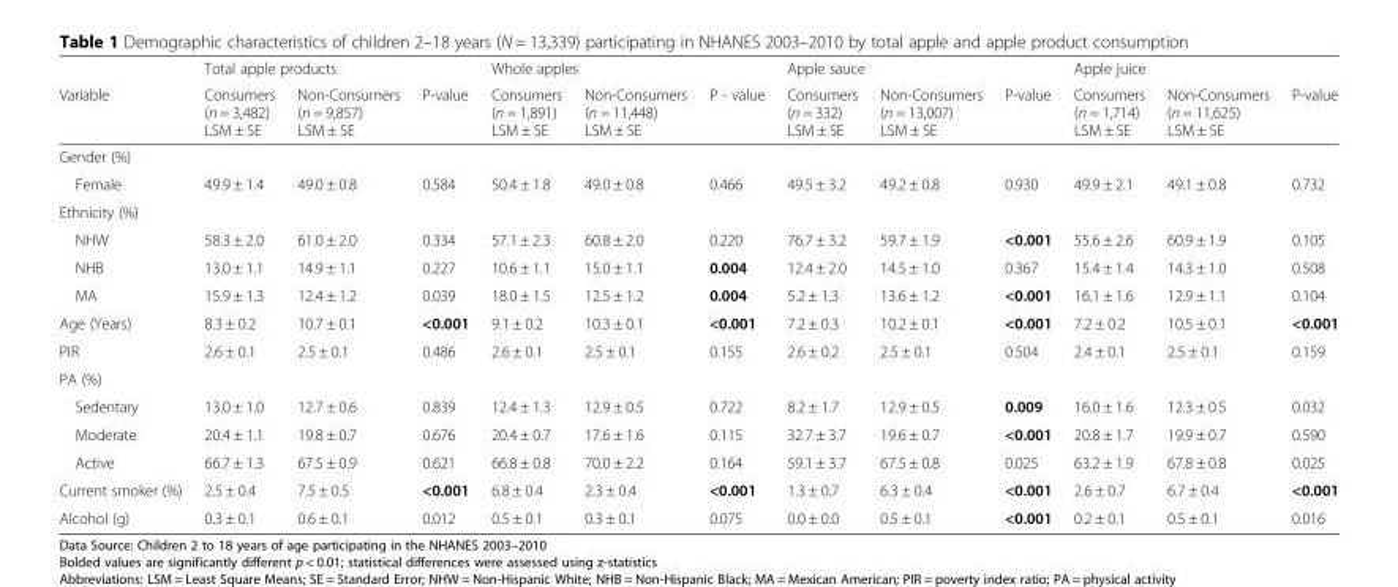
<table><thead><tr><td rowspan="2">Variable</td><td colspan="3">Total apple products</td><td colspan="3">Whole apples</td><td colspan="3">Apple sauce</td><td colspan="3">Apple juice</td></tr><tr><td>Consumers (n = 3,482) LSM ± SE</td><td>Non-Consumers (n = 9,857) LSM ± SE</td><td>P-value</td><td>Consumers (n = 1,891) LSM ± SE</td><td>Non-Consumers (n = 11,448) LSM ± SE</td><td>P - value</td><td>Consumers (n = 332) LSM ± SE</td><td>Non-Consumers (n = 13,007) LSM ± SE</td><td>P-value</td><td>Consumers (n = 1,714) LSM ± SE</td><td>Non-Consumers (n = 11,625) LSM ± SE</td><td>P-value</td></tr></thead><tbody><tr><td colspan="13">Gender (%)</td></tr><tr><td>Female</td><td>49.9 ± 1.4</td><td>49.0 ± 0.8</td><td>0.584</td><td>50.4 ± 1.8</td><td>49.0 ± 0.8</td><td>0.466</td><td>49.5 ± 3.2</td><td>49.2 ± 0.8</td><td>0.930</td><td>49.9 ± 2.1</td><td>49.1 ± 0.8</td><td>0.732</td></tr><tr><td colspan="13">Ethnicity (%)</td></tr><tr><td>NHW</td><td>58.3 ± 2.0</td><td>61.0 ± 2.0</td><td>0.334</td><td>57.1 ± 2.3</td><td>60.8 ± 2.0</td><td>0.220</td><td>76.7 ± 3.2</td><td>59.7 ± 1.9</td><td>&lt;0.001</td><td>55.6 ± 2.6</td><td>60.9 ± 1.9</td><td>0.105</td></tr><tr><td>NHB</td><td>13.0 ± 1.1</td><td>14.9 ± 1.1</td><td>0.227</td><td>10.6 ± 1.1</td><td>15.0 ± 1.1</td><td>0.004</td><td>12.4 ± 2.0</td><td>14.5 ± 1.0</td><td>0.367</td><td>15.4 ± 1.4</td><td>14.3 ± 1.0</td><td>0.508</td></tr><tr><td>MA</td><td>15.9 ± 1.3</td><td>12.4 ± 1.2</td><td>0.039</td><td>18.0 ± 1.5</td><td>12.5 ± 1.2</td><td>0.004</td><td>5.2 ± 1.3</td><td>13.6 ± 1.2</td><td>&lt;0.001</td><td>16.1 ± 1.6</td><td>12.9 ± 1.1</td><td>0.104</td></tr><tr><td>Age (Years)</td><td>8.3 ± 0.2</td><td>10.7 ± 0.1</td><td>&lt;0.001</td><td>9.1 ± 0.2</td><td>10.3 ± 0.1</td><td>&lt;0.001</td><td>7.2 ± 0.3</td><td>10.2 ± 0.1</td><td>&lt;0.001</td><td>7.2 ± 0.2</td><td>10.5 ± 0.1</td><td>&lt;0.001</td></tr><tr><td>PIR</td><td>2.6 ± 0.1</td><td>2.5 ± 0.1</td><td>0.486</td><td>2.6 ± 0.1</td><td>2.5 ± 0.1</td><td>0.155</td><td>2.6 ± 0.2</td><td>2.5 ± 0.1</td><td>0.504</td><td>2.4 ± 0.1</td><td>2.5 ± 0.1</td><td>0.159</td></tr><tr><td colspan="13">PA (%)</td></tr><tr><td>Sedentary</td><td>13.0 ± 1.0</td><td>12.7 ± 0.6</td><td>0.839</td><td>12.4 ± 1.3</td><td>12.9 ± 0.5</td><td>0.722</td><td>8.2 ± 1.7</td><td>12.9 ± 0.5</td><td>0.009</td><td>16.0 ± 1.6</td><td>12.3 ± 0.5</td><td>0.032</td></tr><tr><td>Moderate</td><td>20.4 ± 1.1</td><td>19.8 ± 0.7</td><td>0.676</td><td>20.4 ± 0.7</td><td>17.6 ± 1.6</td><td>0.115</td><td>32.7 ± 3.7</td><td>19.6 ± 0.7</td><td>&lt;0.001</td><td>20.8 ± 1.7</td><td>19.9 ± 0.7</td><td>0.590</td></tr><tr><td>Active</td><td>66.7 ± 1.3</td><td>67.5 ± 0.9</td><td>0.621</td><td>66.8 ± 0.8</td><td>70.0 ± 2.2</td><td>0.164</td><td>59.1 ± 3.7</td><td>67.5 ± 0.8</td><td>0.025</td><td>63.2 ± 1.9</td><td>67.8 ± 0.8</td><td>0.025</td></tr><tr><td>Current smoker (%)</td><td>2.5 ± 0.4</td><td>7.5 ± 0.5</td><td>&lt;0.001</td><td>6.8 ± 0.4</td><td>2.3 ± 0.4</td><td>&lt;0.001</td><td>1.3 ± 0.7</td><td>6.3 ± 0.4</td><td>&lt;0.001</td><td>2.6 ± 0.7</td><td>6.7 ± 0.4</td><td>&lt;0.001</td></tr><tr><td>Alcohol (g)</td><td>0.3 ± 0.1</td><td>0.6 ± 0.1</td><td>0.012</td><td>0.5 ± 0.1</td><td>0.3 ± 0.1</td><td>0.075</td><td>0.0 ± 0.0</td><td>0.5 ± 0.1</td><td>&lt;0.001</td><td>0.2 ± 0.1</td><td>0.5 ± 0.1</td><td>0.016</td></tr></tbody></table>